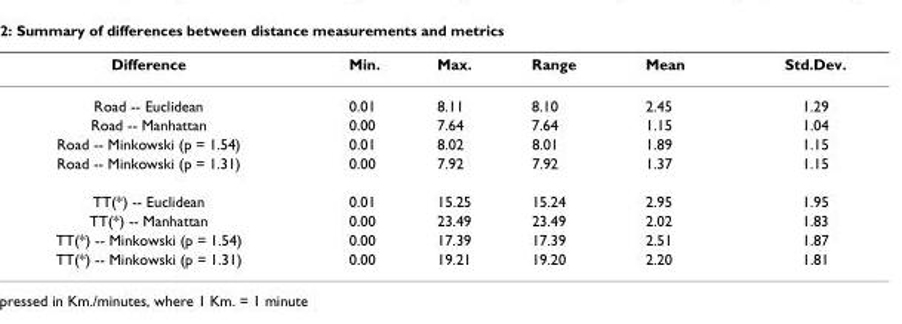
<table><thead><tr><td>Difference</td><td>Min.</td><td>Max.</td><td>Range</td><td>Mean</td><td>Std.Dev.</td></tr></thead><tbody><tr><td>Road -- Euclidean</td><td>0.01</td><td>8.11</td><td>8.10</td><td>2.45</td><td>1.29</td></tr><tr><td>Road -- Manhattan</td><td>0.00</td><td>7.64</td><td>7.64</td><td>1.15</td><td>1.04</td></tr><tr><td>Road -- Minkowski (p = 1.54)</td><td>0.01</td><td>8.02</td><td>8.01</td><td>1.89</td><td>1.15</td></tr><tr><td>Road -- Minkowski (p = 1.31)</td><td>0.00</td><td>7.92</td><td>7.92</td><td>1.37</td><td>1.15</td></tr><tr><td>TT(*) -- Euclidean</td><td>0.01</td><td>15.25</td><td>15.24</td><td>2.95</td><td>1.95</td></tr><tr><td>TT(*) -- Manhattan</td><td>0.00</td><td>23.49</td><td>23.49</td><td>2.02</td><td>1.83</td></tr><tr><td>TT(*) -- Minkowski (p = 1.54)</td><td>0.00</td><td>17.39</td><td>17.39</td><td>2.51</td><td>1.87</td></tr><tr><td>TT(*) -- Minkowski (p = 1.31)</td><td>0.00</td><td>19.21</td><td>19.20</td><td>2.20</td><td>1.81</td></tr></tbody></table>